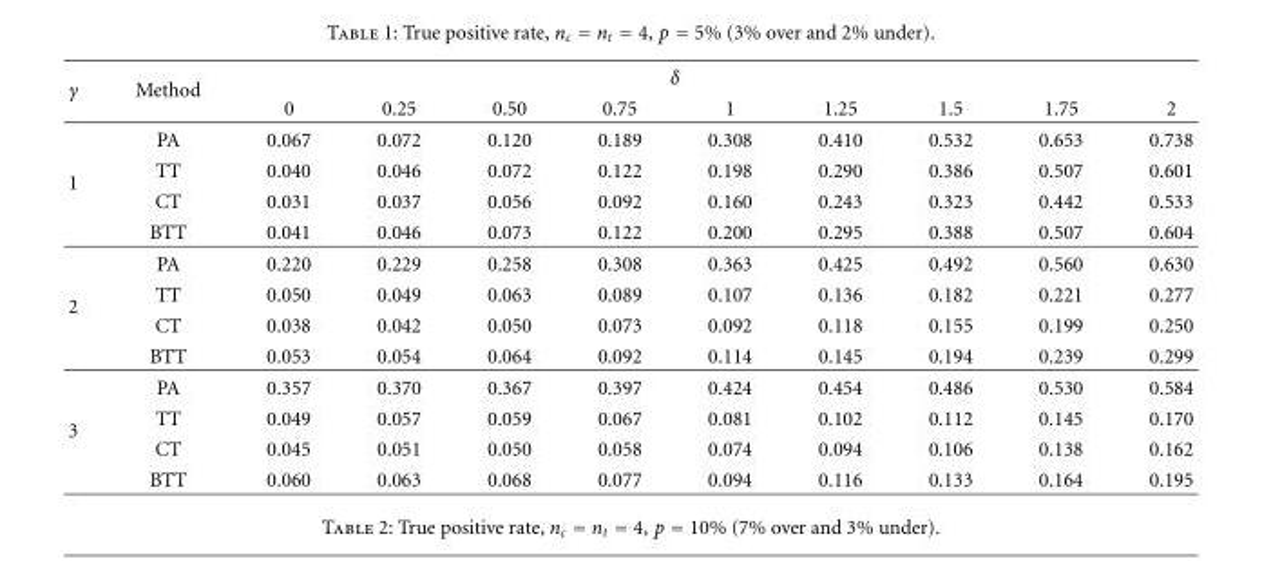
<table><thead><tr><td rowspan="2">γ</td><td rowspan="2">Method</td><td colspan="8">δ</td><td rowspan="2">2</td></tr><tr><td>0</td><td>0.25</td><td>0.50</td><td>0.75</td><td>1</td><td>1.25</td><td>1.5</td><td>1.75</td></tr></thead><tbody><tr><td rowspan="4">1</td><td>PA</td><td>0.067</td><td>0.072</td><td>0.120</td><td>0.189</td><td>0.308</td><td>0.410</td><td>0.532</td><td>0.653</td><td>0.738</td></tr><tr><td>TT</td><td>0.040</td><td>0.046</td><td>0.072</td><td>0.122</td><td>0.198</td><td>0.290</td><td>0.386</td><td>0.507</td><td>0.601</td></tr><tr><td>CT</td><td>0.031</td><td>0.037</td><td>0.056</td><td>0.092</td><td>0.160</td><td>0.243</td><td>0.323</td><td>0.442</td><td>0.533</td></tr><tr><td>BTT</td><td>0.041</td><td>0.046</td><td>0.073</td><td>0.122</td><td>0.200</td><td>0.295</td><td>0.388</td><td>0.507</td><td>0.604</td></tr><tr><td rowspan="4">2</td><td>PA</td><td>0.220</td><td>0.229</td><td>0.258</td><td>0.308</td><td>0.363</td><td>0.425</td><td>0.492</td><td>0.560</td><td>0.630</td></tr><tr><td>TT</td><td>0.050</td><td>0.049</td><td>0.063</td><td>0.089</td><td>0.107</td><td>0.136</td><td>0.182</td><td>0.221</td><td>0.277</td></tr><tr><td>CT</td><td>0.038</td><td>0.042</td><td>0.050</td><td>0.073</td><td>0.092</td><td>0.118</td><td>0.155</td><td>0.199</td><td>0.250</td></tr><tr><td>BTT</td><td>0.053</td><td>0.054</td><td>0.064</td><td>0.092</td><td>0.114</td><td>0.145</td><td>0.194</td><td>0.239</td><td>0.299</td></tr><tr><td rowspan="4">3</td><td>PA</td><td>0.357</td><td>0.370</td><td>0.367</td><td>0.397</td><td>0.424</td><td>0.454</td><td>0.486</td><td>0.530</td><td>0.584</td></tr><tr><td>TT</td><td>0.049</td><td>0.057</td><td>0.059</td><td>0.067</td><td>0.081</td><td>0.102</td><td>0.112</td><td>0.145</td><td>0.170</td></tr><tr><td>CT</td><td>0.045</td><td>0.051</td><td>0.050</td><td>0.058</td><td>0.074</td><td>0.094</td><td>0.106</td><td>0.138</td><td>0.162</td></tr><tr><td>BTT</td><td>0.060</td><td>0.063</td><td>0.068</td><td>0.077</td><td>0.094</td><td>0.116</td><td>0.133</td><td>0.164</td><td>0.195</td></tr></tbody></table>